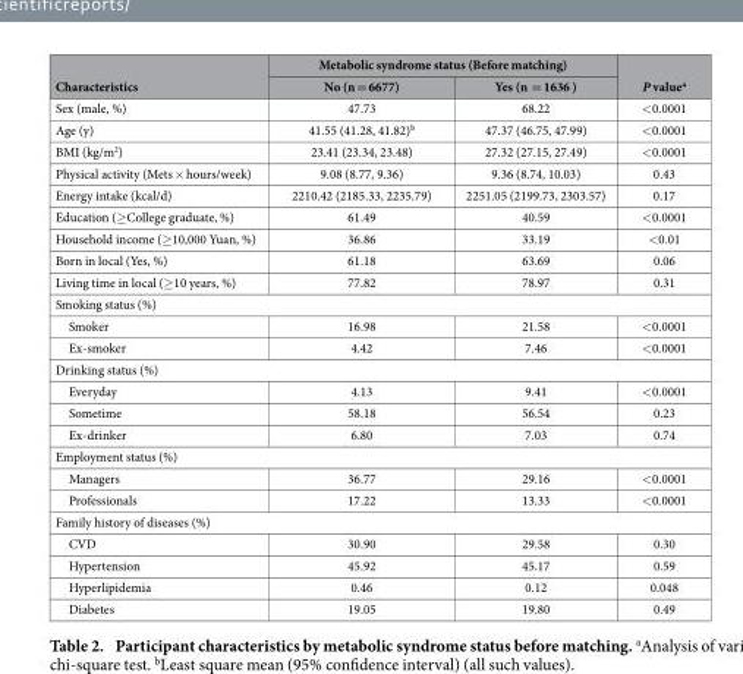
<table><thead><tr><td rowspan="2">Characteristics</td><td colspan="2">Metabolic syndrome status (Before matching)</td><td rowspan="2">P value<sup>a</sup></td></tr><tr><td>No (n = 6677)</td><td>Yes (n = 1636 )</td></tr></thead><tbody><tr><td>Sex (male, %)</td><td>47.73</td><td>68.22</td><td>&lt; 0.0001</td></tr><tr><td>Age (y)</td><td>41.55 (41.28, 41.82)<sup>b</sup></td><td>47.37 (46.75, 47.99)</td><td>&lt; 0.0001</td></tr><tr><td>BMI (kg/m<sup>2</sup>)</td><td>23.41 (23.34, 23.48)</td><td>27.32 (27.15, 27.49)</td><td>&lt; 0.0001</td></tr><tr><td>Physical activity (Mets × hours/week)</td><td>9.08 (8.77, 9.36)</td><td>9.36 (8.74, 10.03)</td><td>0.43</td></tr><tr><td>Energy intake (kcal/d)</td><td>2210.42 (2185.33, 2235.79)</td><td>2251.05 (2199.73, 2303.57)</td><td>0.17</td></tr><tr><td>Education (≥ College graduate, %)</td><td>61.49</td><td>40.59</td><td>&lt; 0.0001</td></tr><tr><td>Household income (≥ 10,000 Yuan, %)</td><td>36.86</td><td>33.19</td><td>&lt; 0.01</td></tr><tr><td>Born in local (Yes, %)</td><td>61.18</td><td>63.69</td><td>0.06</td></tr><tr><td>Living time in local (≥ 10 years, %)</td><td>77.82</td><td>78.97</td><td>0.31</td></tr><tr><td colspan="4">Smoking status (%)</td></tr><tr><td>Smoker</td><td>16.98</td><td>21.58</td><td>&lt; 0.0001</td></tr><tr><td>Ex-smoker</td><td>4.42</td><td>7.46</td><td>&lt; 0.0001</td></tr><tr><td colspan="4">Drinking status (%)</td></tr><tr><td>Everyday</td><td>4.13</td><td>9.41</td><td>&lt; 0.0001</td></tr><tr><td>Sometime</td><td>58.18</td><td>56.54</td><td>0.23</td></tr><tr><td>Ex-drinker</td><td>6.80</td><td>7.03</td><td>0.74</td></tr><tr><td colspan="4">Employment status (%)</td></tr><tr><td>Managers</td><td>36.77</td><td>29.16</td><td>&lt; 0.0001</td></tr><tr><td>Professionals</td><td>17.22</td><td>13.33</td><td>&lt; 0.0001</td></tr><tr><td colspan="4">Family history of diseases (%)</td></tr><tr><td>CVD</td><td>30.90</td><td>29.58</td><td>0.30</td></tr><tr><td>Hypertension</td><td>45.92</td><td>45.17</td><td>0.59</td></tr><tr><td>Hyperlipidemia</td><td>0.46</td><td>0.12</td><td>0.048</td></tr><tr><td>Diabetes</td><td>19.05</td><td>19.80</td><td>0.49</td></tr></tbody></table>